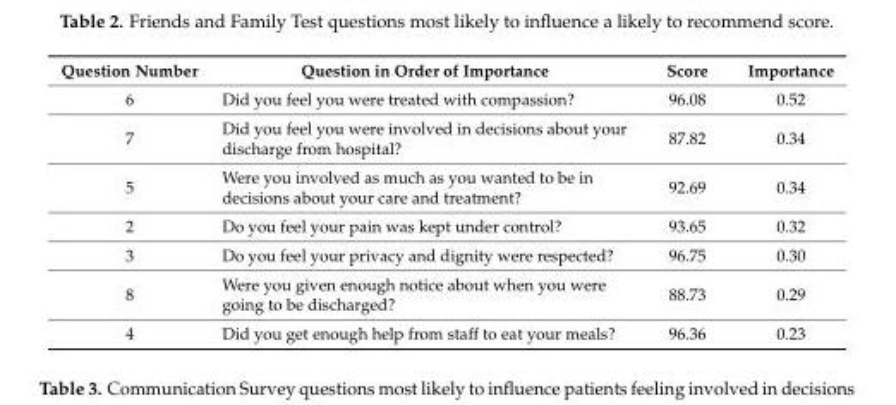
<table><thead><tr><td>Question Number</td><td>Question in Order of Importance</td><td>Score</td><td>Importance</td></tr></thead><tbody><tr><td>6</td><td>Did you feel you were treated with compassion?</td><td>96.08</td><td>0.52</td></tr><tr><td>7</td><td>Did you feel you were involved in decisions about your discharge from hospital?</td><td>87.82</td><td>0.34</td></tr><tr><td>5</td><td>Were you involved as much as you wanted to be in decisions about your care and treatment?</td><td>92.69</td><td>0.34</td></tr><tr><td>2</td><td>Do you feel your pain was kept under control?</td><td>93.65</td><td>0.32</td></tr><tr><td>3</td><td>Do you feel your privacy and dignity were respected?</td><td>96.75</td><td>0.30</td></tr><tr><td>8</td><td>Were you given enough notice about when you were going to be discharged?</td><td>88.73</td><td>0.29</td></tr><tr><td>4</td><td>Did you get enough help from staff to eat your meals?</td><td>96.36</td><td>0.23</td></tr></tbody></table>